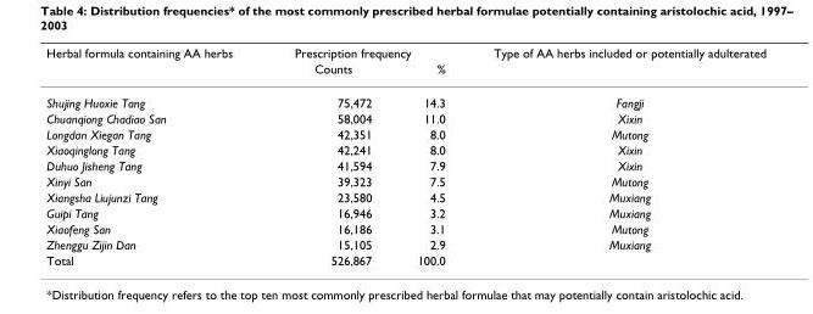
<table><thead><tr><td rowspan="2">Herbal formula containing AA herbs</td><td colspan="2">Prescription frequency</td><td rowspan="2">Type of AA herbs included or potentially adulterated</td></tr><tr><td>Counts</td><td>%</td></tr></thead><tbody><tr><td>Shujing Huoxie Tang</td><td>75,472</td><td>14.3</td><td>Fangji</td></tr><tr><td>Chuanqiong Chadiao San</td><td>58,004</td><td>11.0</td><td>Xixin</td></tr><tr><td>Longdan Xiegan Tang</td><td>42,351</td><td>8.0</td><td>Mutong</td></tr><tr><td>Xiaoqinglong Tang</td><td>42,241</td><td>8.0</td><td>Xixin</td></tr><tr><td>Duhuo Jisheng Tang</td><td>41,594</td><td>7.9</td><td>Xixin</td></tr><tr><td>Xinyi San</td><td>39,323</td><td>7.5</td><td>Mutong</td></tr><tr><td>Xiangsha Liujunzi Tang</td><td>23,580</td><td>4.5</td><td>Muxiang</td></tr><tr><td>Guipi Tang</td><td>16,946</td><td>3.2</td><td>Muxiang</td></tr><tr><td>Xiaofeng San</td><td>16,186</td><td>3.1</td><td>Mutong</td></tr><tr><td>Zhenggu Zijin Dan</td><td>15,105</td><td>2.9</td><td>Muxiang</td></tr><tr><td>Total</td><td>526,867</td><td>100.0</td><td></td></tr></tbody></table>